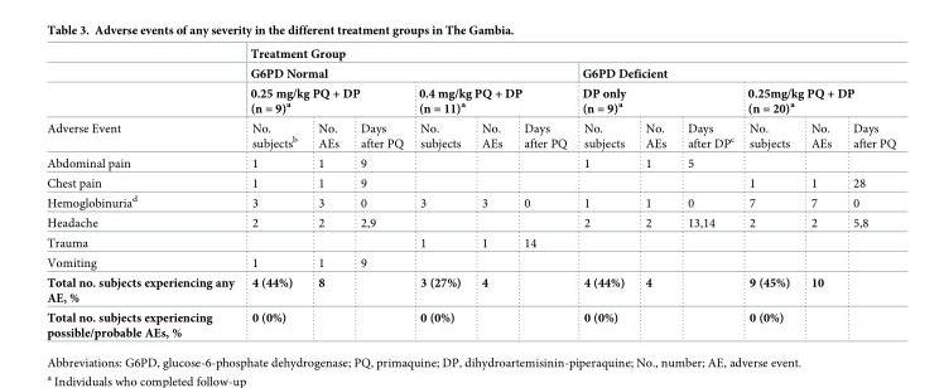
<table><thead><tr><td rowspan="4">Adverse Event</td><td colspan="12">Treatment Group</td></tr><tr><td colspan="6">G6PD Normal</td><td colspan="6">G6PD Deficient</td></tr><tr><td colspan="3">0.25 mg/kg PQ + DP (n = 9)<sup>a</sup></td><td colspan="3">0.4 mg/kg PQ + DP (n = 11)<sup>a</sup></td><td colspan="3">DP only (n = 9)<sup>a</sup></td><td colspan="3">0.25mg/kg PQ + DP (n = 20)<sup>a</sup></td></tr><tr><td>No. subjects<sup>b</sup></td><td>No. AEs</td><td>Days after PQ</td><td>No. subjects</td><td>No. AEs</td><td>Days after PQ</td><td>No. subjects</td><td>No. AEs</td><td>Days after DP<sup>c</sup></td><td>No. subjects</td><td>No. AEs</td><td>Days after PQ</td></tr></thead><tbody><tr><td>Abdominal pain</td><td>1</td><td>1</td><td>9</td><td></td><td></td><td></td><td>1</td><td>1</td><td>5</td><td></td><td></td><td></td></tr><tr><td>Chest pain</td><td>1</td><td>1</td><td>9</td><td></td><td></td><td></td><td></td><td></td><td></td><td>1</td><td>1</td><td>28</td></tr><tr><td>Hemoglobinuria<sup>d</sup></td><td>3</td><td>3</td><td>0</td><td>3</td><td>3</td><td>0</td><td>1</td><td>1</td><td>0</td><td>7</td><td>7</td><td>0</td></tr><tr><td>Headache</td><td>2</td><td>2</td><td>2,9</td><td></td><td></td><td></td><td>2</td><td>2</td><td>13,14</td><td>2</td><td>2</td><td>5,8</td></tr><tr><td>Trauma</td><td></td><td></td><td></td><td>1</td><td>1</td><td>14</td><td></td><td></td><td></td><td></td><td></td><td></td></tr><tr><td>Vomiting</td><td>1</td><td>1</td><td>9</td><td></td><td></td><td></td><td></td><td></td><td></td><td></td><td></td><td></td></tr><tr><td>Total no. subjects experiencing any AE, %</td><td>4 (44%)</td><td>8</td><td></td><td>3 (27%)</td><td>4</td><td></td><td>4 (44%)</td><td>4</td><td></td><td>9 (45%)</td><td>10</td><td></td></tr><tr><td>Total no. subjects experiencing possible/probable AEs, %</td><td>0 (0%)</td><td></td><td></td><td>0 (0%)</td><td></td><td></td><td>0 (0%)</td><td></td><td></td><td>0 (0%)</td><td></td><td></td></tr></tbody></table>